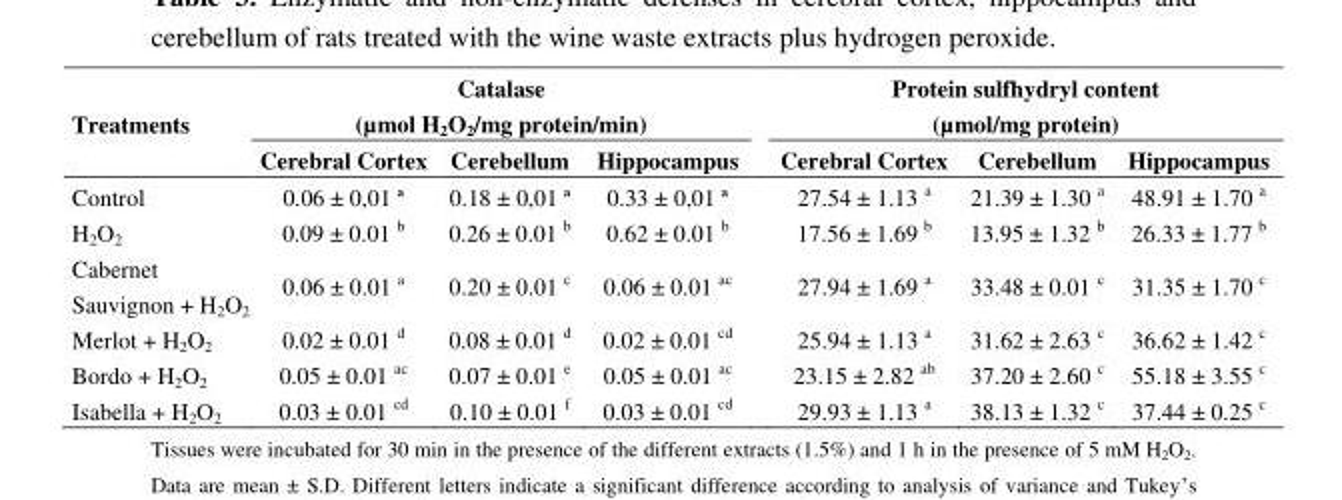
<table><thead><tr><td rowspan="2">Treatments</td><td colspan="3">Catalase (µmol H<sub>2</sub>O<sub>2</sub>/mg protein/min)</td><td colspan="3">Protein sulfhydryl content (µmol/mg protein)</td></tr><tr><td>Cerebral Cortex</td><td>Cerebellum</td><td>Hippocampus</td><td>Cerebral Cortex</td><td>Cerebellum</td><td>Hippocampus</td></tr></thead><tbody><tr><td>Control</td><td>0.06 ± 0,01 ª</td><td>0.18 ± 0,01 ª</td><td>0.33 ± 0,01 ª</td><td>27.54 ± 1.13 <sup>a</sup></td><td>21.39 ± 1.30 <sup>a</sup></td><td>48.91 ± 1.70 <sup>a</sup></td></tr><tr><td>H<sub>2</sub>O<sub>2</sub></td><td>0.09 ± 0.01 <sup>b</sup></td><td>0.26 ± 0.01 <sup>b</sup></td><td>0.62 ± 0.01 <sup>b</sup></td><td>17.56 ± 1.69 <sup>b</sup></td><td>13.95 ± 1.32 <sup>b</sup></td><td>26.33 ± 1.77 <sup>b</sup></td></tr><tr><td>Cabernet Sauvignon + H<sub>2</sub>O<sub>2</sub></td><td>0.06 ± 0.01 <sup>a</sup></td><td>0.20 ± 0.01 <sup>c</sup></td><td>0.06 ± 0.01 <sup>ac</sup></td><td>27.94 ± 1.69 <sup>a</sup></td><td>33.48 ± 0.01 <sup>c</sup></td><td>31.35 ± 1.70 <sup>c</sup></td></tr><tr><td>Merlot + H<sub>2</sub>O<sub>2</sub></td><td>0.02 ± 0.01 <sup>d</sup></td><td>0.08 ± 0.01 <sup>d</sup></td><td>0.02 ± 0.01 <sup>cd</sup></td><td>25.94 ± 1.13 <sup>a</sup></td><td>31.62 ± 2.63 <sup>c</sup></td><td>36.62 ± 1.42 <sup>c</sup></td></tr><tr><td>Bordo + H<sub>2</sub>O<sub>2</sub></td><td>0.05 ± 0.01 <sup>ac</sup></td><td>0.07 ± 0.01 <sup>e</sup></td><td>0.05 ± 0.01 <sup>ac</sup></td><td>23.15 ± 2.82 <sup>ab</sup></td><td>37.20 ± 2.60 <sup>c</sup></td><td>55.18 ± 3.55 <sup>c</sup></td></tr><tr><td>Isabella + H<sub>2</sub>O<sub>2</sub></td><td>0.03 ± 0.01 <sup>cd</sup></td><td>0.10 ± 0.01 <sup>f</sup></td><td>0.03 ± 0.01 <sup>cd</sup></td><td>29.93 ± 1.13 <sup>a</sup></td><td>38.13 ± 1.32 <sup>c</sup></td><td>37.44 ± 0.25 <sup>c</sup></td></tr></tbody></table>